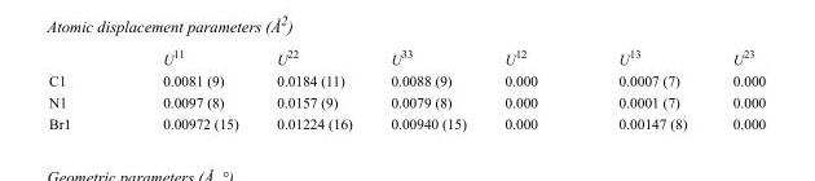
<table><thead><tr><td></td><td>U<sup>11</sup></td><td>U<sup>22</sup></td><td>U<sup>33</sup></td><td>U<sup>12</sup></td><td>U<sup>13</sup></td><td>U<sup>23</sup></td></tr></thead><tbody><tr><td>C1</td><td>0.0081 (9)</td><td>0.0184 (11)</td><td>0.0088 (9)</td><td>0.000</td><td>0.0007 (7)</td><td>0.000</td></tr><tr><td>N1</td><td>0.0097 (8)</td><td>0.0157 (9)</td><td>0.0079 (8)</td><td>0.000</td><td>0.0001 (7)</td><td>0.000</td></tr><tr><td>Br1</td><td>0.00972 (15)</td><td>0.01224 (16)</td><td>0.00940 (15)</td><td>0.000</td><td>0.00147 (8)</td><td>0.000</td></tr></tbody></table>